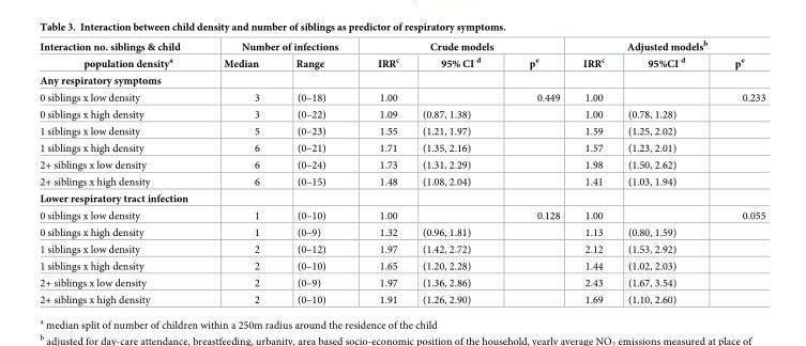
<table><thead><tr><td rowspan="2">Interaction no. siblings &amp; child population density<sup>a</sup></td><td colspan="2">Number of infections</td><td colspan="3">Crude models</td><td colspan="3">Adjusted models<sup>b</sup></td></tr><tr><td>Median</td><td>Range</td><td>IRR<sup>c</sup></td><td>95% CI <sup>d</sup></td><td>p<sup>e</sup></td><td>IRR<sup>c</sup></td><td>95%CI <sup>d</sup></td><td>p<sup>e</sup></td></tr></thead><tbody><tr><td colspan="9">Any respiratory symptoms</td></tr><tr><td>0 siblings x low density</td><td>3</td><td>(0–18)</td><td>1.00</td><td></td><td>0.449</td><td>1.00</td><td></td><td>0.233</td></tr><tr><td>0 siblings x high density</td><td>3</td><td>(0–22)</td><td>1.09</td><td>(0.87, 1.38)</td><td></td><td>1.00</td><td>(0.78, 1.28)</td><td></td></tr><tr><td>1 siblings x low density</td><td>5</td><td>(0–23)</td><td>1.55</td><td>(1.21, 1.97)</td><td></td><td>1.59</td><td>(1.25, 2.02)</td><td></td></tr><tr><td>1 siblings x high density</td><td>6</td><td>(0–21)</td><td>1.71</td><td>(1.35, 2.16)</td><td></td><td>1.57</td><td>(1.23, 2.01)</td><td></td></tr><tr><td>2+ siblings x low density</td><td>6</td><td>(0–24)</td><td>1.73</td><td>(1.31, 2.29)</td><td></td><td>1.98</td><td>(1.50, 2.62)</td><td></td></tr><tr><td>2+ siblings x high density</td><td>6</td><td>(0–15)</td><td>1.48</td><td>(1.08, 2.04)</td><td></td><td>1.41</td><td>(1.03, 1.94)</td><td></td></tr><tr><td colspan="9">Lower respiratory tract infection</td></tr><tr><td>0 siblings x low density</td><td>1</td><td>(0–10)</td><td>1.00</td><td></td><td>0.128</td><td>1.00</td><td></td><td>0.055</td></tr><tr><td>0 siblings x high density</td><td>1</td><td>(0–9)</td><td>1.32</td><td>(0.96, 1.81)</td><td></td><td>1.13</td><td>(0.80, 1.59)</td><td></td></tr><tr><td>1 siblings x low density</td><td>2</td><td>(0–12)</td><td>1.97</td><td>(1.42, 2.72)</td><td></td><td>2.12</td><td>(1.53, 2.92)</td><td></td></tr><tr><td>1 siblings x high density</td><td>2</td><td>(0–10)</td><td>1.65</td><td>(1.20, 2.28)</td><td></td><td>1.44</td><td>(1.02, 2.03)</td><td></td></tr><tr><td>2+ siblings x low density</td><td>2</td><td>(0–9)</td><td>1.97</td><td>(1.36, 2.86)</td><td></td><td>2.43</td><td>(1.67, 3.54)</td><td></td></tr><tr><td>2+ siblings x high density</td><td>2</td><td>(0–10)</td><td>1.91</td><td>(1.26, 2.90)</td><td></td><td>1.69</td><td>(1.10, 2.60)</td><td></td></tr></tbody></table>